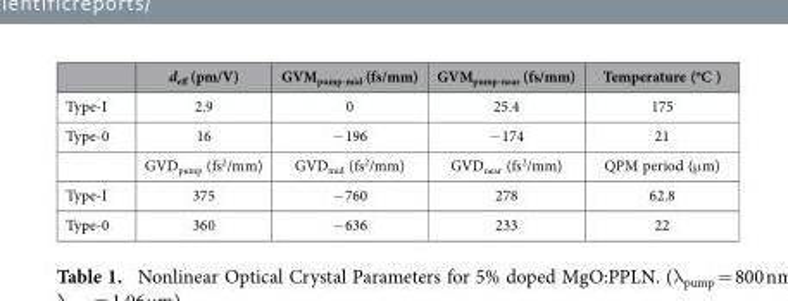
<table><thead><tr><td></td><td>d<sub>eff</sub> (pm/V)</td><td>GVM<sub>pump-mid</sub> (fs/mm)</td><td>GVM<sub>pump-near</sub> (fs/mm)</td><td>Temperature (<sup>o</sup>C )</td></tr></thead><tbody><tr><td>Type-I</td><td>2.9</td><td>0</td><td>25.4</td><td>175</td></tr><tr><td rowspan="2">Type-0</td><td>16</td><td>− 196</td><td>− 174</td><td>21</td></tr><tr><td>GVD<sub>pump</sub> (fs<sup>2</sup>/mm)</td><td>GVD<sub>mid</sub> (fs<sup>2</sup>/mm)</td><td>GVD<sub>near</sub> (fs<sup>2</sup>/mm)</td><td>QPM period (μ m)</td></tr><tr><td>Type-I</td><td>375</td><td>− 760</td><td>278</td><td>62.8</td></tr><tr><td>Type-0</td><td>360</td><td>− 636</td><td>233</td><td>22</td></tr></tbody></table>